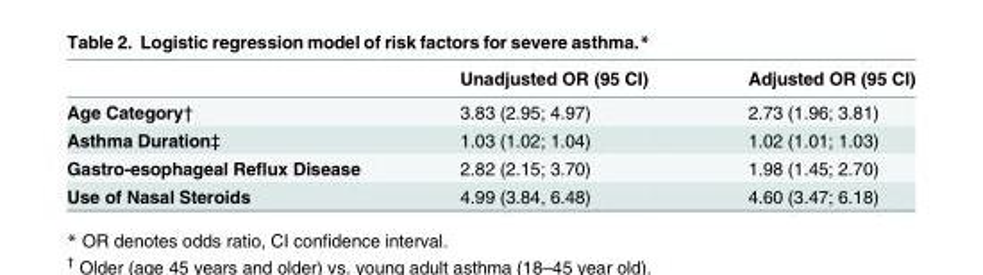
<table><thead><tr><td></td><td>Unadjusted OR (95 CI)</td><td>Adjusted OR (95 CI)</td></tr></thead><tbody><tr><td>Age Category†</td><td>3.83 (2.95; 4.97)</td><td>2.73 (1.96; 3.81)</td></tr><tr><td>Asthma Duration‡</td><td>1.03 (1.02; 1.04)</td><td>1.02 (1.01; 1.03)</td></tr><tr><td>Gastro-esophageal Reflux Disease</td><td>2.82 (2.15; 3.70)</td><td>1.98 (1.45; 2.70)</td></tr><tr><td>Use of Nasal Steroids</td><td>4.99 (3.84, 6.48)</td><td>4.60 (3.47; 6.18)</td></tr></tbody></table>